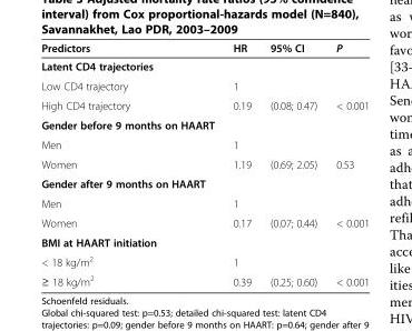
<table><thead><tr><td>Predictors</td><td>HR</td><td>95% CI</td><td>P</td></tr></thead><tbody><tr><td colspan="4">Latent CD4 trajectories</td></tr><tr><td>Low CD4 trajectory</td><td>1</td><td></td><td></td></tr><tr><td>High CD4 trajectory</td><td>0.19</td><td>(0.08; 0.47)</td><td>&lt; 0.001</td></tr><tr><td colspan="4">Gender before 9 months on HAART</td></tr><tr><td>Men</td><td>1</td><td></td><td></td></tr><tr><td>Women</td><td>1.19</td><td>(0.69; 2.05)</td><td>0.53</td></tr><tr><td colspan="4">Gender after 9 months on HAART</td></tr><tr><td>Men</td><td>1</td><td></td><td></td></tr><tr><td>Women</td><td>0.17</td><td>(0.07; 0.44)</td><td>&lt; 0.001</td></tr><tr><td colspan="4">BMI at HAART initiation</td></tr><tr><td>&lt; 18 kg/m<sup>2</sup></td><td>1</td><td></td><td></td></tr><tr><td>≥ 18 kg/m<sup>2</sup></td><td>0.39</td><td>(0.25; 0.60)</td><td>&lt; 0.001</td></tr></tbody></table>